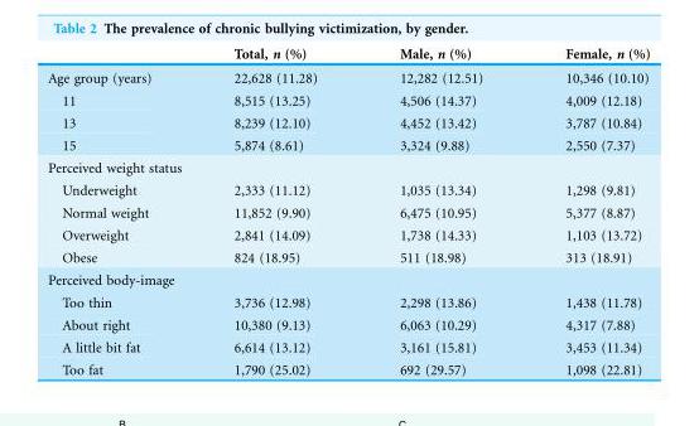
<table><thead><tr><td></td><td>Total, n (%)</td><td>Male, n (%)</td><td>Female, n (%)</td></tr></thead><tbody><tr><td>Age group (years)</td><td>22,628 (11.28)</td><td>12,282 (12.51)</td><td>10,346 (10.10)</td></tr><tr><td>11</td><td>8,515 (13.25)</td><td>4,506 (14.37)</td><td>4,009 (12.18)</td></tr><tr><td>13</td><td>8,239 (12.10)</td><td>4,452 (13.42)</td><td>3,787 (10.84)</td></tr><tr><td>15</td><td>5,874 (8.61)</td><td>3,324 (9.88)</td><td>2,550 (7.37)</td></tr><tr><td colspan="4">Perceived weight status</td></tr><tr><td>Underweight</td><td>2,333 (11.12)</td><td>1,035 (13.34)</td><td>1,298 (9.81)</td></tr><tr><td>Normal weight</td><td>11,852 (9.90)</td><td>6,475 (10.95)</td><td>5,377 (8.87)</td></tr><tr><td>Overweight</td><td>2,841 (14.09)</td><td>1,738 (14.33)</td><td>1,103 (13.72)</td></tr><tr><td>Obese</td><td>824 (18.95)</td><td>511 (18.98)</td><td>313 (18.91)</td></tr><tr><td colspan="4">Perceived body-image</td></tr><tr><td>Too thin</td><td>3,736 (12.98)</td><td>2,298 (13.86)</td><td>1,438 (11.78)</td></tr><tr><td>About right</td><td>10,380 (9.13)</td><td>6,063 (10.29)</td><td>4,317 (7.88)</td></tr><tr><td>A little bit fat</td><td>6,614 (13.12)</td><td>3,161 (15.81)</td><td>3,453 (11.34)</td></tr><tr><td>Too fat</td><td>1,790 (25.02)</td><td>692 (29.57)</td><td>1,098 (22.81)</td></tr></tbody></table>